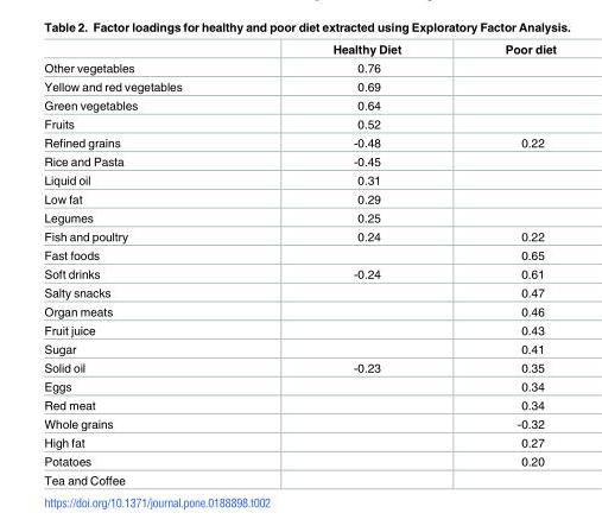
<table><thead><tr><td></td><td>Healthy Diet</td><td>Poor diet</td></tr></thead><tbody><tr><td>Other vegetables</td><td>0.76</td><td></td></tr><tr><td>Yellow and red vegetables</td><td>0.69</td><td></td></tr><tr><td>Green vegetables</td><td>0.64</td><td></td></tr><tr><td>Fruits</td><td>0.52</td><td></td></tr><tr><td>Refined grains</td><td>-0.48</td><td>0.22</td></tr><tr><td>Rice and Pasta</td><td>-0.45</td><td></td></tr><tr><td>Liquid oil</td><td>0.31</td><td></td></tr><tr><td>Low fat</td><td>0.29</td><td></td></tr><tr><td>Legumes</td><td>0.25</td><td></td></tr><tr><td>Fish and poultry</td><td>0.24</td><td>0.22</td></tr><tr><td>Fast foods</td><td></td><td>0.65</td></tr><tr><td>Soft drinks</td><td>-0.24</td><td>0.61</td></tr><tr><td>Salty snacks</td><td></td><td>0.47</td></tr><tr><td>Organ meats</td><td></td><td>0.46</td></tr><tr><td>Fruit juice</td><td></td><td>0.43</td></tr><tr><td>Sugar</td><td></td><td>0.41</td></tr><tr><td>Solid oil</td><td>-0.23</td><td>0.35</td></tr><tr><td>Eggs</td><td></td><td>0.34</td></tr><tr><td>Red meat</td><td></td><td>0.34</td></tr><tr><td>Whole grains</td><td></td><td>-0.32</td></tr><tr><td>High fat</td><td></td><td>0.27</td></tr><tr><td>Potatoes</td><td></td><td>0.20</td></tr><tr><td>Tea and Coffee</td><td></td><td></td></tr></tbody></table>